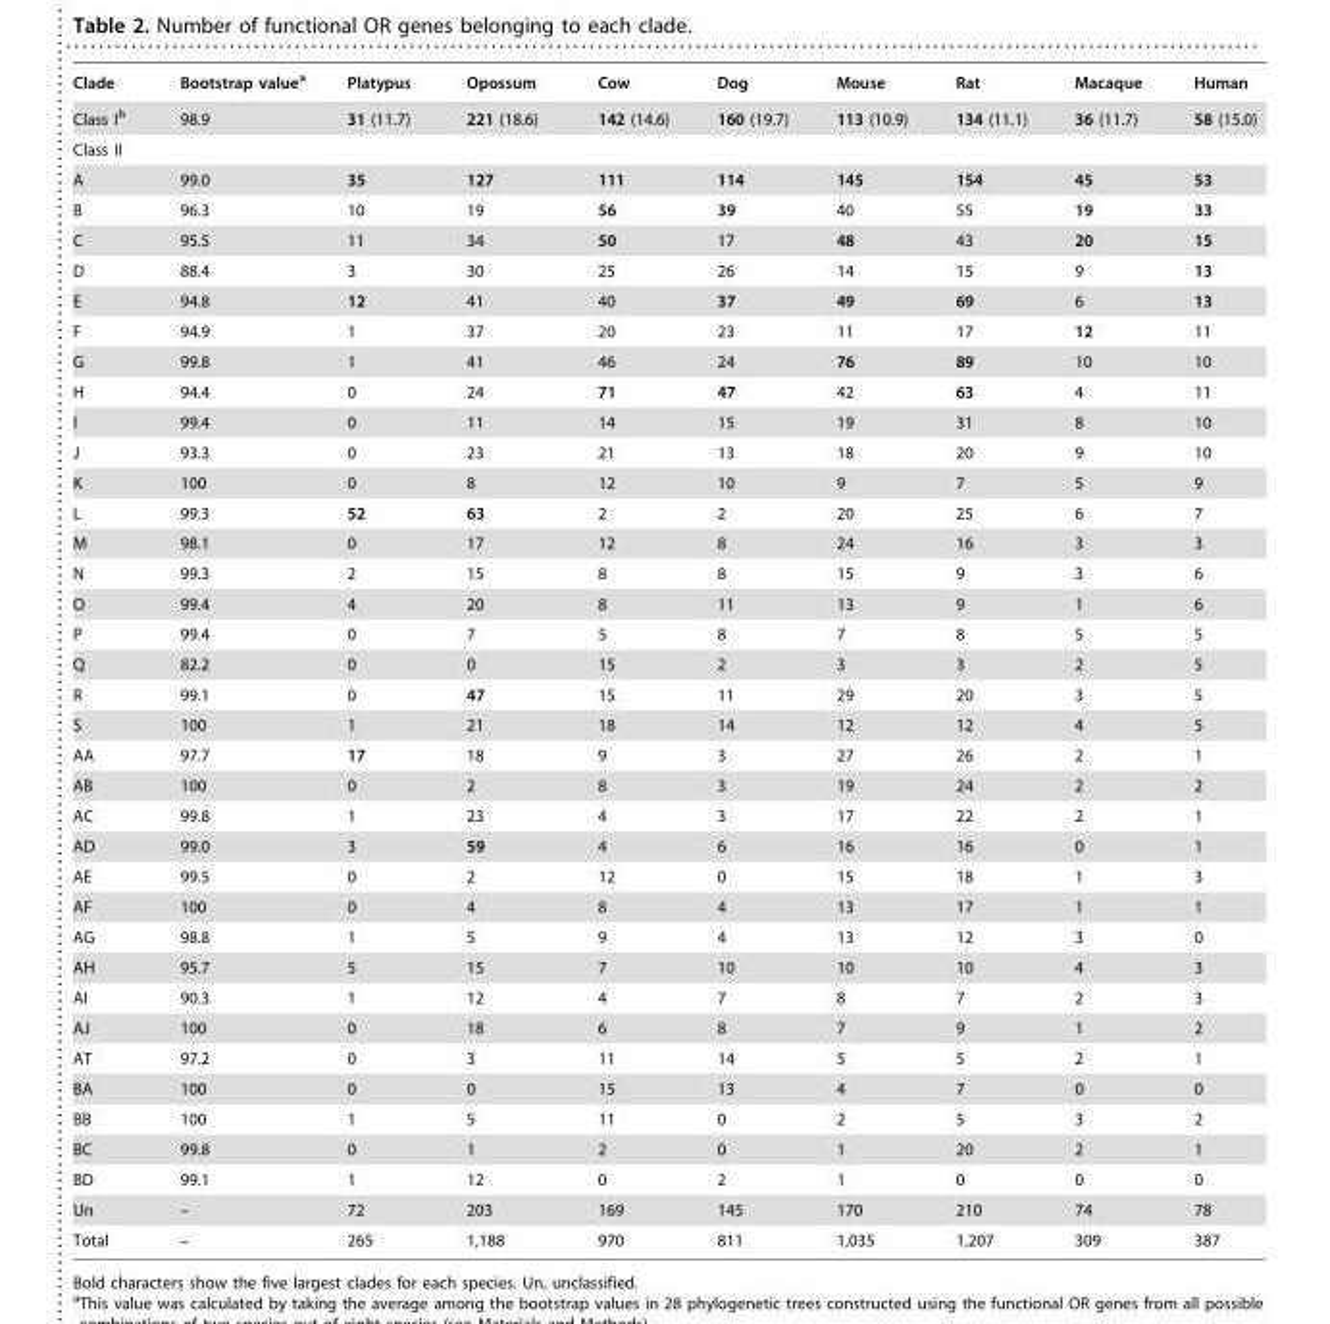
<table><thead><tr><td>Clade</td><td>Bootstrap value<sup>a</sup></td><td>Platypus</td><td>Opossum</td><td>Cow</td><td>Dog</td><td>Mouse</td><td>Rat</td><td>Macaque</td><td>Human</td></tr></thead><tbody><tr><td>Class I<sup>b</sup></td><td>98.9</td><td>31 (11.7)</td><td>221 (18.6)</td><td>142 (14.6)</td><td>160 (19.7)</td><td>113 (10.9)</td><td>134 (11.1)</td><td>36 (11.7)</td><td>58 (15.0)</td></tr><tr><td colspan="10">Class II</td></tr><tr><td>A</td><td>99.0</td><td>35</td><td>127</td><td>111</td><td>114</td><td>145</td><td>154</td><td>45</td><td>53</td></tr><tr><td>B</td><td>96.3</td><td>10</td><td>19</td><td>56</td><td>39</td><td>40</td><td>55</td><td>19</td><td>33</td></tr><tr><td>C</td><td>95.5</td><td>11</td><td>34</td><td>50</td><td>17</td><td>48</td><td>43</td><td>20</td><td>15</td></tr><tr><td>D</td><td>88.4</td><td>3</td><td>30</td><td>25</td><td>26</td><td>14</td><td>15</td><td>9</td><td>13</td></tr><tr><td>E</td><td>94.8</td><td>12</td><td>41</td><td>40</td><td>37</td><td>49</td><td>69</td><td>6</td><td>13</td></tr><tr><td>F</td><td>94.9</td><td>1</td><td>37</td><td>20</td><td>23</td><td>11</td><td>17</td><td>12</td><td>11</td></tr><tr><td>G</td><td>99.8</td><td>1</td><td>41</td><td>46</td><td>24</td><td>76</td><td>89</td><td>10</td><td>10</td></tr><tr><td>H</td><td>94.4</td><td>0</td><td>24</td><td>71</td><td>47</td><td>42</td><td>63</td><td>4</td><td>11</td></tr><tr><td>I</td><td>99.4</td><td>0</td><td>11</td><td>14</td><td>15</td><td>19</td><td>31</td><td>8</td><td>10</td></tr><tr><td>J</td><td>93.3</td><td>0</td><td>23</td><td>21</td><td>13</td><td>18</td><td>20</td><td>9</td><td>10</td></tr><tr><td>K</td><td>100</td><td>0</td><td>8</td><td>12</td><td>10</td><td>9</td><td>7</td><td>5</td><td>9</td></tr><tr><td>L</td><td>99.3</td><td>52</td><td>63</td><td>2</td><td>2</td><td>20</td><td>25</td><td>6</td><td>7</td></tr><tr><td>M</td><td>98.1</td><td>0</td><td>17</td><td>12</td><td>8</td><td>24</td><td>16</td><td>3</td><td>3</td></tr><tr><td>N</td><td>99.3</td><td>2</td><td>15</td><td>8</td><td>8</td><td>15</td><td>9</td><td>3</td><td>6</td></tr><tr><td>O</td><td>99.4</td><td>4</td><td>20</td><td>8</td><td>11</td><td>13</td><td>9</td><td>1</td><td>6</td></tr><tr><td>P</td><td>99.4</td><td>0</td><td>7</td><td>5</td><td>8</td><td>7</td><td>8</td><td>5</td><td>5</td></tr><tr><td>Q</td><td>82.2</td><td>0</td><td>0</td><td>15</td><td>2</td><td>3</td><td>3</td><td>2</td><td>5</td></tr><tr><td>R</td><td>99.1</td><td>0</td><td>47</td><td>15</td><td>11</td><td>29</td><td>20</td><td>3</td><td>5</td></tr><tr><td>S</td><td>100</td><td>1</td><td>21</td><td>18</td><td>14</td><td>12</td><td>12</td><td>4</td><td>5</td></tr><tr><td>AA</td><td>97.7</td><td>17</td><td>18</td><td>9</td><td>3</td><td>27</td><td>26</td><td>2</td><td>1</td></tr><tr><td>AB</td><td>100</td><td>0</td><td>2</td><td>8</td><td>3</td><td>19</td><td>24</td><td>2</td><td>2</td></tr><tr><td>AC</td><td>99.8</td><td>1</td><td>23</td><td>4</td><td>3</td><td>17</td><td>22</td><td>2</td><td>1</td></tr><tr><td>AD</td><td>99.0</td><td>3</td><td>59</td><td>4</td><td>6</td><td>16</td><td>16</td><td>0</td><td>1</td></tr><tr><td>AE</td><td>99.5</td><td>0</td><td>2</td><td>12</td><td>0</td><td>15</td><td>18</td><td>1</td><td>3</td></tr><tr><td>AF</td><td>100</td><td>0</td><td>4</td><td>8</td><td>4</td><td>13</td><td>17</td><td>1</td><td>1</td></tr><tr><td>AG</td><td>98.8</td><td>1</td><td>5</td><td>9</td><td>4</td><td>13</td><td>12</td><td>3</td><td>0</td></tr><tr><td>AH</td><td>95.7</td><td>5</td><td>15</td><td>7</td><td>10</td><td>10</td><td>10</td><td>4</td><td>3</td></tr><tr><td>AI</td><td>90.3</td><td>1</td><td>12</td><td>4</td><td>7</td><td>8</td><td>7</td><td>2</td><td>3</td></tr><tr><td>AJ</td><td>100</td><td>0</td><td>18</td><td>6</td><td>8</td><td>7</td><td>9</td><td>1</td><td>2</td></tr><tr><td>AT</td><td>97.2</td><td>0</td><td>3</td><td>11</td><td>14</td><td>5</td><td>5</td><td>2</td><td>1</td></tr><tr><td>BA</td><td>100</td><td>0</td><td>0</td><td>15</td><td>13</td><td>4</td><td>7</td><td>0</td><td>0</td></tr><tr><td>BB</td><td>100</td><td>1</td><td>5</td><td>11</td><td>0</td><td>2</td><td>5</td><td>3</td><td>2</td></tr><tr><td>BC</td><td>99.8</td><td>0</td><td>1</td><td>2</td><td>0</td><td>1</td><td>20</td><td>2</td><td>1</td></tr><tr><td>BD</td><td>99.1</td><td>1</td><td>12</td><td>0</td><td>2</td><td>1</td><td>0</td><td>0</td><td>0</td></tr><tr><td>Un</td><td>–</td><td>72</td><td>203</td><td>169</td><td>145</td><td>170</td><td>210</td><td>74</td><td>78</td></tr><tr><td>Total</td><td>–</td><td>265</td><td>1,188</td><td>970</td><td>811</td><td>1,035</td><td>1,207</td><td>309</td><td>387</td></tr></tbody></table>